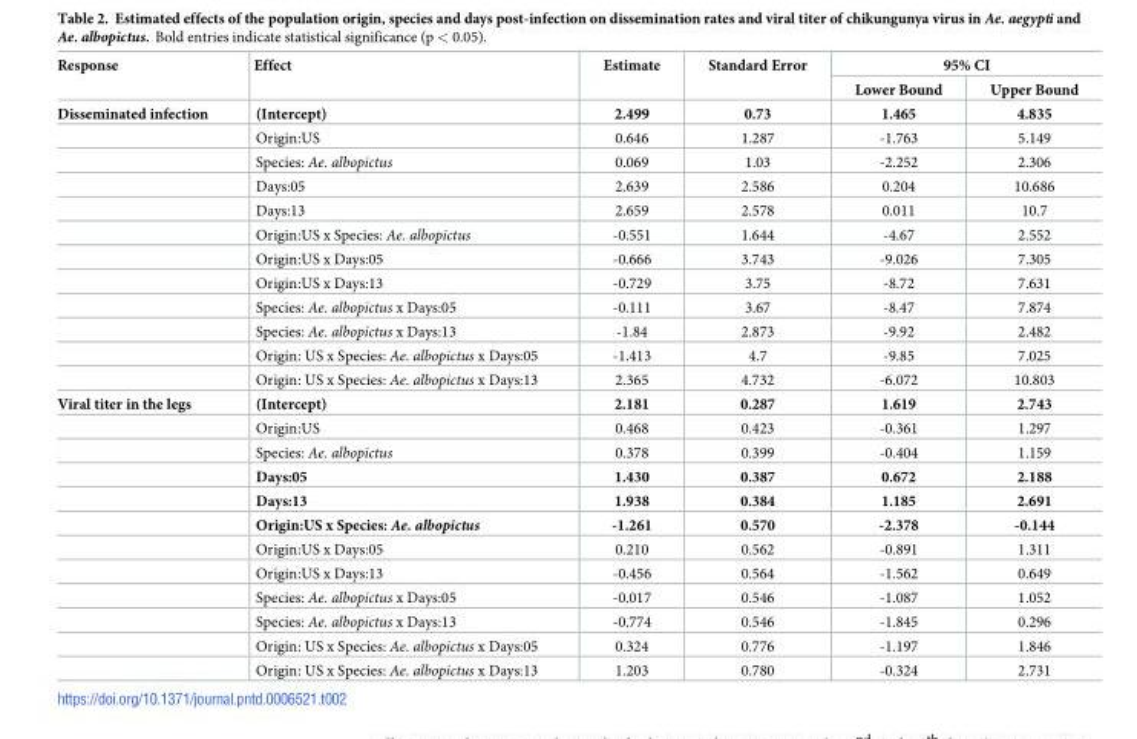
<table><thead><tr><td rowspan="2">Response</td><td rowspan="2">Effect</td><td rowspan="2">Estimate</td><td rowspan="2">Standard Error</td><td colspan="2">95% CI</td></tr><tr><td>Lower Bound</td><td>Upper Bound</td></tr></thead><tbody><tr><td rowspan="12">Disseminated infection</td><td>(Intercept)</td><td>2.499</td><td>0.73</td><td>1.465</td><td>4.835</td></tr><tr><td>Origin:US</td><td>0.646</td><td>1.287</td><td>-1.763</td><td>5.149</td></tr><tr><td>Species: Ae. albopictus</td><td>0.069</td><td>1.03</td><td>-2.252</td><td>2.306</td></tr><tr><td>Days:05</td><td>2.639</td><td>2.586</td><td>0.204</td><td>10.686</td></tr><tr><td>Days:13</td><td>2.659</td><td>2.578</td><td>0.011</td><td>10.7</td></tr><tr><td>Origin:US x Species: Ae. albopictus</td><td>-0.551</td><td>1.644</td><td>-4.67</td><td>2.552</td></tr><tr><td>Origin:US x Days:05</td><td>-0.666</td><td>3.743</td><td>-9.026</td><td>7.305</td></tr><tr><td>Origin:US x Days:13</td><td>-0.729</td><td>3.75</td><td>-8.72</td><td>7.631</td></tr><tr><td>Species: Ae. albopictus x Days:05</td><td>-0.111</td><td>3.67</td><td>-8.47</td><td>7.874</td></tr><tr><td>Species: Ae. albopictus x Days:13</td><td>-1.84</td><td>2.873</td><td>-9.92</td><td>2.482</td></tr><tr><td>Origin: US x Species: Ae. albopictus x Days:05</td><td>-1.413</td><td>4.7</td><td>-9.85</td><td>7.025</td></tr><tr><td>Origin: US x Species: Ae. albopictus x Days:13</td><td>2.365</td><td>4.732</td><td>-6.072</td><td>10.803</td></tr><tr><td rowspan="12">Viral titer in the legs</td><td>(Intercept)</td><td>2.181</td><td>0.287</td><td>1.619</td><td>2.743</td></tr><tr><td>Origin:US</td><td>0.468</td><td>0.423</td><td>-0.361</td><td>1.297</td></tr><tr><td>Species: Ae. albopictus</td><td>0.378</td><td>0.399</td><td>-0.404</td><td>1.159</td></tr><tr><td>Days:05</td><td>1.430</td><td>0.387</td><td>0.672</td><td>2.188</td></tr><tr><td>Days:13</td><td>1.938</td><td>0.384</td><td>1.185</td><td>2.691</td></tr><tr><td>Origin:US x Species: Ae. albopictus</td><td>-1.261</td><td>0.570</td><td>-2.378</td><td>-0.144</td></tr><tr><td>Origin:US x Days:05</td><td>0.210</td><td>0.562</td><td>-0.891</td><td>1.311</td></tr><tr><td>Origin:US x Days:13</td><td>-0.456</td><td>0.564</td><td>-1.562</td><td>0.649</td></tr><tr><td>Species: Ae. albopictus x Days:05</td><td>-0.017</td><td>0.546</td><td>-1.087</td><td>1.052</td></tr><tr><td>Species: Ae. albopictus x Days:13</td><td>-0.774</td><td>0.546</td><td>-1.845</td><td>0.296</td></tr><tr><td>Origin: US x Species: Ae. albopictus x Days:05</td><td>0.324</td><td>0.776</td><td>-1.197</td><td>1.846</td></tr><tr><td>Origin: US x Species: Ae. albopictus x Days:13</td><td>1.203</td><td>0.780</td><td>-0.324</td><td>2.731</td></tr></tbody></table>